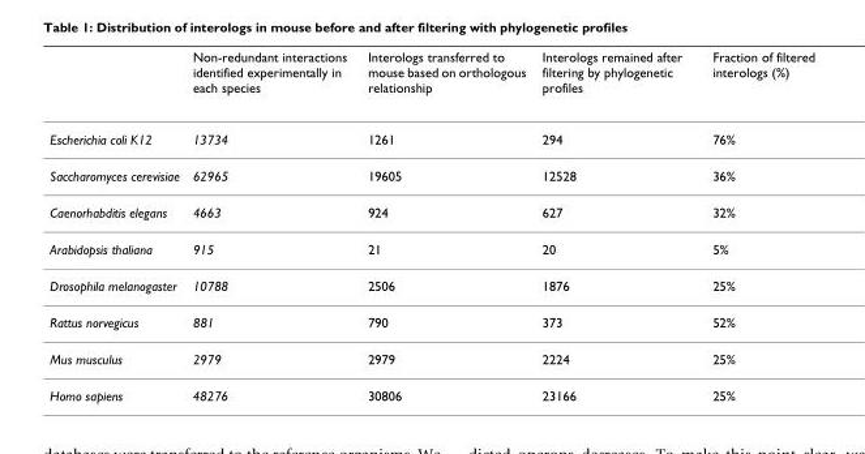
<table><thead><tr><td></td><td>Non-redundant interactions identified experimentally in each species</td><td>Interologs transferred to mouse based on orthologous relationship</td><td>Interologs remained after filtering by phylogenetic profiles</td><td>Fraction of filtered interologs (%)</td></tr></thead><tbody><tr><td>Escherichia coli K12</td><td>13734</td><td>1261</td><td>294</td><td>76%</td></tr><tr><td>Saccharomyces cerevisiae</td><td>62965</td><td>19605</td><td>12528</td><td>36%</td></tr><tr><td>Caenorhabditis elegans</td><td>4663</td><td>924</td><td>627</td><td>32%</td></tr><tr><td>Arabidopsis thaliana</td><td>915</td><td>21</td><td>20</td><td>5%</td></tr><tr><td>Drosophila melanogaster</td><td>10788</td><td>2506</td><td>1876</td><td>25%</td></tr><tr><td>Rattus norvegicus</td><td>881</td><td>790</td><td>373</td><td>52%</td></tr><tr><td>Mus musculus</td><td>2979</td><td>2979</td><td>2224</td><td>25%</td></tr><tr><td>Homo sapiens</td><td>48276</td><td>30806</td><td>23166</td><td>25%</td></tr></tbody></table>